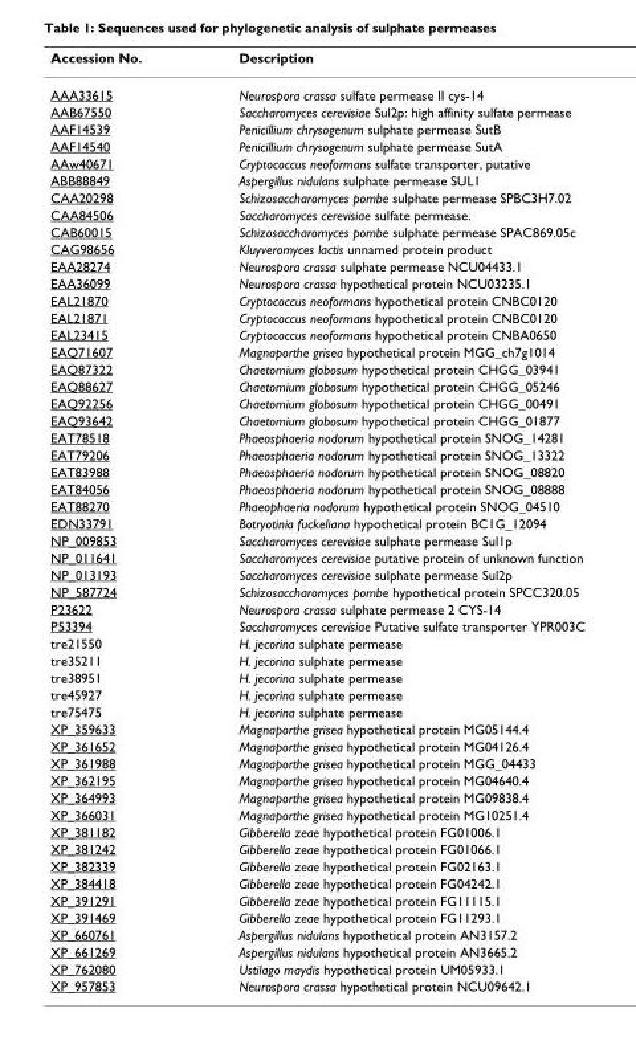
<table><thead><tr><td>Accession No.</td><td>Description</td></tr></thead><tbody><tr><td>AAA33615</td><td>Neurospora crassa sulfate permease II cys-14</td></tr><tr><td>AAB67550</td><td>Saccharomyces cerevisiae Sul2p: high affinity sulfate permease</td></tr><tr><td>AAF14539</td><td>Penicillium chrysogenum sulphate permease SutB</td></tr><tr><td>AAF14540</td><td>Penicillium chrysogenum sulphate permease SutA</td></tr><tr><td>AAw40671</td><td>Cryptococcus neoformans sulfate transporter, putative</td></tr><tr><td>ABB88849</td><td>Aspergillus nidulans sulphate permease SUL1</td></tr><tr><td>CAA20298</td><td>Schizosaccharomyces pombe sulphate permease SPBC3H7.02</td></tr><tr><td>CAA84506</td><td>Saccharomyces cerevisiae sulfate permease.</td></tr><tr><td>CAB60015</td><td>Schizosaccharomyces pombe sulphate permease SPAC869.05c</td></tr><tr><td>CAG98656</td><td>Kluyveromyces lactis unnamed protein product</td></tr><tr><td>EAA28274</td><td>Neurospora crassa sulphate permease NCU04433.1</td></tr><tr><td>EAA36099</td><td>Neurospora crassa hypothetical protein NCU03235.1</td></tr><tr><td>EAL21870</td><td>Cryptococcus neoformans hypothetical protein CNBC0120</td></tr><tr><td>EAL21871</td><td>Cryptococcus neoformans hypothetical protein CNBC0120</td></tr><tr><td>EAL23415</td><td>Cryptococcus neoformans hypothetical protein CNBA0650</td></tr><tr><td>EAQ71607</td><td>Magnaporthe grisea hypothetical protein MGG_ch7g1014</td></tr><tr><td>EAQ87322</td><td>Chaetomium globosum hypothetical protein CHGG_03941</td></tr><tr><td>EAQ88627</td><td>Chaetomium globosum hypothetical protein CHGG_05246</td></tr><tr><td>EAQ92256</td><td>Chaetomium globosum hypothetical protein CHGG_00491</td></tr><tr><td>EAQ93642</td><td>Chaetomium globosum hypothetical protein CHGG_01877</td></tr><tr><td>EAT78518</td><td>Phaeosphaeria nodorum hypothetical protein SNOG_14281</td></tr><tr><td>EAT79206</td><td>Phaeosphaeria nodorum hypothetical protein SNOG_13322</td></tr><tr><td>EAT83988</td><td>Phaeosphaeria nodorum hypothetical protein SNOG_08820</td></tr><tr><td>EAT84056</td><td>Phaeosphaeria nodorum hypothetical protein SNOG_08888</td></tr><tr><td>EAT88270</td><td>Phaeophaeria nodorum hypothetical protein SNOG_04510</td></tr><tr><td>EDN33791</td><td>Botryotinia fuckeliana hypothetical protein BC1G_12094</td></tr><tr><td>NP_009853</td><td>Saccharomyces cerevisiae sulphate permease Sul1p</td></tr><tr><td>NP_011641</td><td>Saccharomyces cerevisiae putative protein of unknown function</td></tr><tr><td>NP_013193</td><td>Saccharomyces cerevisiae sulphate permease Sul2p</td></tr><tr><td>NP_587724</td><td>Schizosaccharomyces pombe hypothetical protein SPCC320.05</td></tr><tr><td>P23622</td><td>Neurospora crassa sulphate permease 2 CYS-14</td></tr><tr><td>P53394</td><td>Saccharomyces cerevisiae Putative sulfate transporter YPR003C</td></tr><tr><td>tre21550</td><td>H. jecorina sulphate permease</td></tr><tr><td>tre35211</td><td>H. jecorina sulphate permease</td></tr><tr><td>tre38951</td><td>H. jecorina sulphate permease</td></tr><tr><td>tre45927</td><td>H. jecorina sulphate permease</td></tr><tr><td>tre75475</td><td>H. jecorina sulphate permease</td></tr><tr><td>XP_359633</td><td>Magnaporthe grisea hypothetical protein MG05144.4</td></tr><tr><td>XP_361652</td><td>Magnaporthe grisea hypothetical protein MG04126.4</td></tr><tr><td>XP_361988</td><td>Magnaporthe grisea hypothetical protein MGG_04433</td></tr><tr><td>XP_362195</td><td>Magnaporthe grisea hypothetical protein MG04640.4</td></tr><tr><td>XP_364993</td><td>Magnaporthe grisea hypothetical protein MG09838.4</td></tr><tr><td>XP_366031</td><td>Magnaporthe grisea hypothetical protein MG10251.4</td></tr><tr><td>XP_381182</td><td>Gibberella zeae hypothetical protein FG01006.1</td></tr><tr><td>XP_381242</td><td>Gibberella zeae hypothetical protein FG01066.1</td></tr><tr><td>XP_382339</td><td>Gibberella zeae hypothetical protein FG02163.1</td></tr><tr><td>XP_384418</td><td>Gibberella zeae hypothetical protein FG04242.1</td></tr><tr><td>XP_391291</td><td>Gibberella zeae hypothetical protein FG11115.1</td></tr><tr><td>XP_391469</td><td>Gibberella zeae hypothetical protein FG11293.1</td></tr><tr><td>XP_660761</td><td>Aspergillus nidulans hypothetical protein AN3157.2</td></tr><tr><td>XP_661269</td><td>Aspergillus nidulans hypothetical protein AN3665.2</td></tr><tr><td>XP_762080</td><td>Ustilago maydis hypothetical protein UM05933.1</td></tr><tr><td>XP_957853</td><td>Neurospora crassa hypothetical protein NCU09642.1</td></tr></tbody></table>